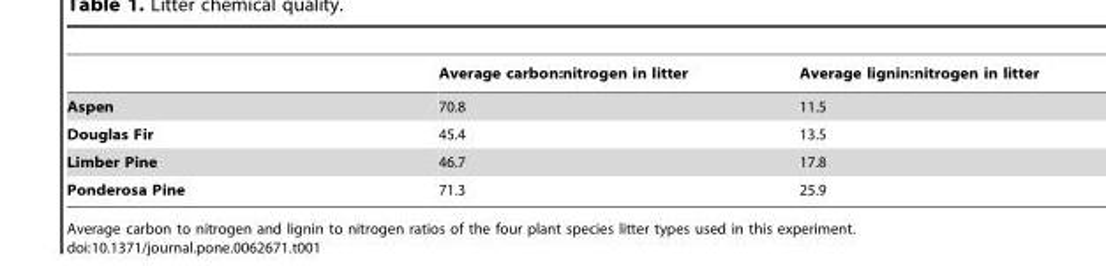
<table><thead><tr><td></td><td>Average carbon:nitrogen in litter</td><td>Average lignin:nitrogen in litter</td></tr></thead><tbody><tr><td>Aspen</td><td>70.8</td><td>11.5</td></tr><tr><td>Douglas Fir</td><td>45.4</td><td>13.5</td></tr><tr><td>Limber Pine</td><td>46.7</td><td>17.8</td></tr><tr><td>Ponderosa Pine</td><td>71.3</td><td>25.9</td></tr></tbody></table>